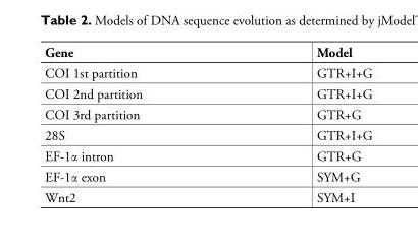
<table><tbody><tr><td>Gene</td><td>Model</td></tr><tr><td>COI 1st partition</td><td>GTR+I+G</td></tr><tr><td>COI 2nd partition</td><td>GTR+I+G</td></tr><tr><td>COI 3rd partition</td><td>GTR+G</td></tr><tr><td>28S</td><td>GTR+I+G</td></tr><tr><td>EF-1α intron</td><td>GTR+G</td></tr><tr><td>EF-1α exon</td><td>SYM+G</td></tr><tr><td>Wnt2</td><td>SYM+I</td></tr></tbody></table>